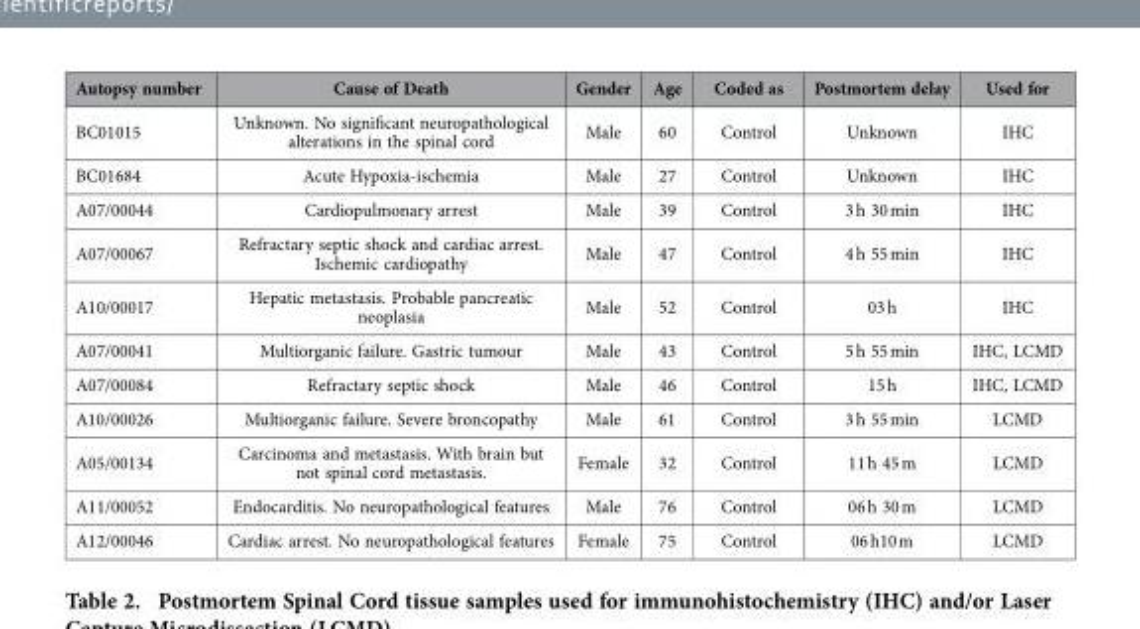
<table><thead><tr><td>Autopsy number</td><td>Cause of Death</td><td>Gender</td><td>Age</td><td>Coded as</td><td>Postmortem delay</td><td>Used for</td></tr></thead><tbody><tr><td>BC01015</td><td>Unknown. No significant neuropathological alterations in the spinal cord</td><td>Male</td><td>60</td><td>Control</td><td>Unknown</td><td>IHC</td></tr><tr><td>BC01684</td><td>Acute Hypoxia-ischemia</td><td>Male</td><td>27</td><td>Control</td><td>Unknown</td><td>IHC</td></tr><tr><td>A07/00044</td><td>Cardiopulmonary arrest</td><td>Male</td><td>39</td><td>Control</td><td>3 h 30 min</td><td>IHC</td></tr><tr><td>A07/00067</td><td>Refractary septic shock and cardiac arrest. Ischemic cardiopathy</td><td>Male</td><td>47</td><td>Control</td><td>4 h 55 min</td><td>IHC</td></tr><tr><td>A10/00017</td><td>Hepatic metastasis. Probable pancreatic neoplasia</td><td>Male</td><td>52</td><td>Control</td><td>03 h</td><td>IHC</td></tr><tr><td>A07/00041</td><td>Multiorganic failure. Gastric tumour</td><td>Male</td><td>43</td><td>Control</td><td>5 h 55 min</td><td>IHC, LCMD</td></tr><tr><td>A07/00084</td><td>Refractary septic shock</td><td>Male</td><td>46</td><td>Control</td><td>15 h</td><td>IHC, LCMD</td></tr><tr><td>A10/00026</td><td>Multiorganic failure. Severe broncopathy</td><td>Male</td><td>61</td><td>Control</td><td>3 h 55 min</td><td>LCMD</td></tr><tr><td>A05/00134</td><td>Carcinoma and metastasis. With brain but not spinal cord metastasis.</td><td>Female</td><td>32</td><td>Control</td><td>11 h 45 m</td><td>LCMD</td></tr><tr><td>A11/00052</td><td>Endocarditis. No neuropathological features</td><td>Male</td><td>76</td><td>Control</td><td>06 h 30 m</td><td>LCMD</td></tr><tr><td>A12/00046</td><td>Cardiac arrest. No neuropathological features</td><td>Female</td><td>75</td><td>Control</td><td>06 h10 m</td><td>LCMD</td></tr></tbody></table>